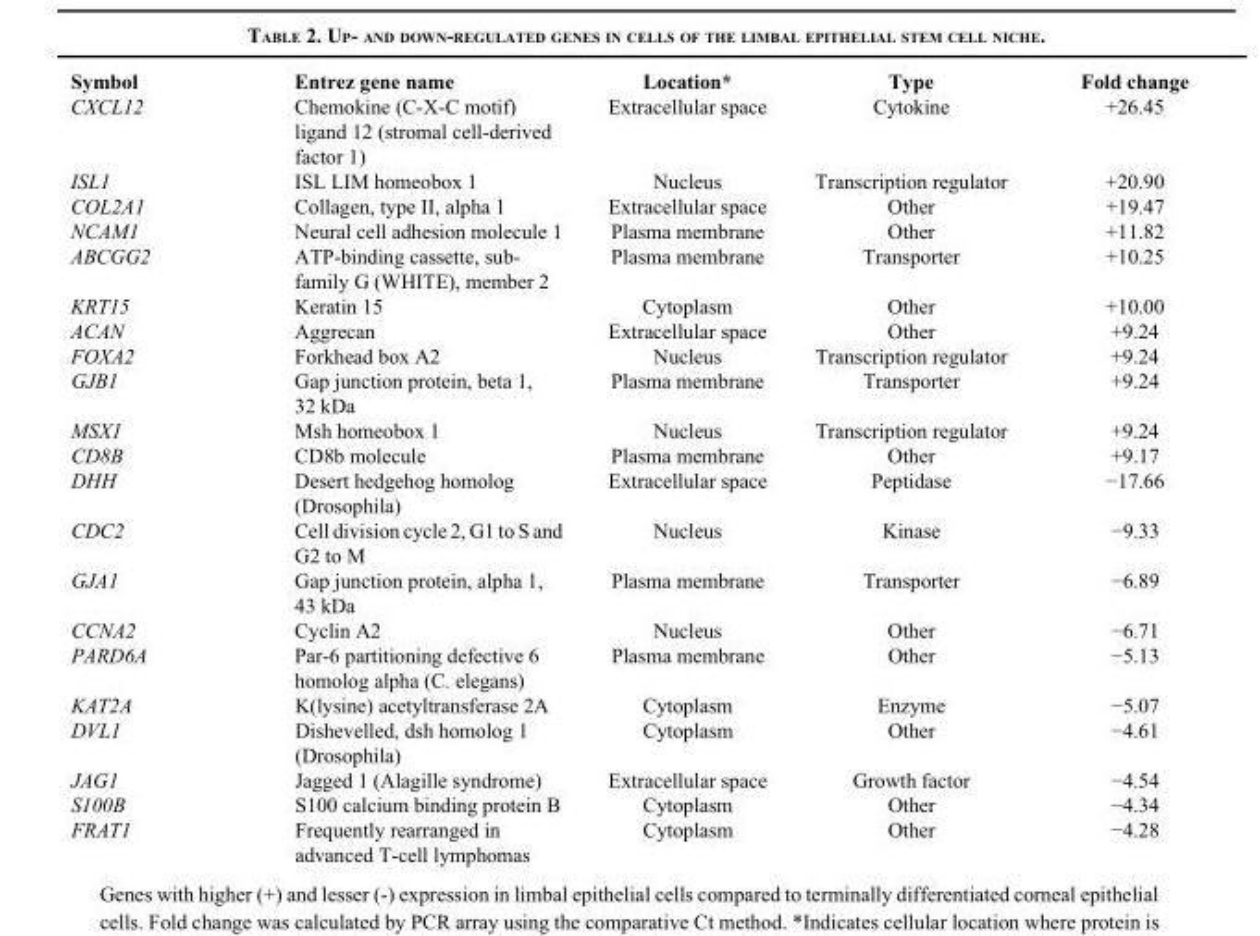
<table><thead><tr><td>Symbol</td><td>Entrez gene name</td><td>Location*</td><td>Type</td><td>Fold change</td></tr></thead><tbody><tr><td>CXCL12</td><td>Chemokine (C-X-C motif) ligand 12 (stromal cell-derived factor 1)</td><td>Extracellular space</td><td>Cytokine</td><td>+26.45</td></tr><tr><td>ISL1</td><td>ISL LIM homeobox 1</td><td>Nucleus</td><td>Transcription regulator</td><td>+20.90</td></tr><tr><td>COL2A1</td><td>Collagen, type II, alpha 1</td><td>Extracellular space</td><td>Other</td><td>+19.47</td></tr><tr><td>NCAM1</td><td>Neural cell adhesion molecule 1</td><td>Plasma membrane</td><td>Other</td><td>+11.82</td></tr><tr><td>ABCGG2</td><td>ATP-binding cassette, sub- family G (WHITE), member 2</td><td>Plasma membrane</td><td>Transporter</td><td>+10.25</td></tr><tr><td>KRT15</td><td>Keratin 15</td><td>Cytoplasm</td><td>Other</td><td>+10.00</td></tr><tr><td>ACAN</td><td>Aggrecan</td><td>Extracellular space</td><td>Other</td><td>+9.24</td></tr><tr><td>FOXA2</td><td>Forkhead box A2</td><td>Nucleus</td><td>Transcription regulator</td><td>+9.24</td></tr><tr><td>GJB1</td><td>Gap junction protein, beta 1, 32 kDa</td><td>Plasma membrane</td><td>Transporter</td><td>+9.24</td></tr><tr><td>MSX1</td><td>Msh homeobox 1</td><td>Nucleus</td><td>Transcription regulator</td><td>+9.24</td></tr><tr><td>CD8B</td><td>CD8b molecule</td><td>Plasma membrane</td><td>Other</td><td>+9.17</td></tr><tr><td>DHH</td><td>Desert hedgehog homolog (Drosophila)</td><td>Extracellular space</td><td>Peptidase</td><td>−17.66</td></tr><tr><td>CDC2</td><td>Cell division cycle 2, G1 to S and G2 to M</td><td>Nucleus</td><td>Kinase</td><td>−9.33</td></tr><tr><td>GJA1</td><td>Gap junction protein, alpha 1, 43 kDa</td><td>Plasma membrane</td><td>Transporter</td><td>−6.89</td></tr><tr><td>CCNA2</td><td>Cyclin A2</td><td>Nucleus</td><td>Other</td><td>−6.71</td></tr><tr><td>PARD6A</td><td>Par-6 partitioning defective 6 homolog alpha (C. elegans)</td><td>Plasma membrane</td><td>Other</td><td>−5.13</td></tr><tr><td>KAT2A</td><td>K(lysine) acetyltransferase 2A</td><td>Cytoplasm</td><td>Enzyme</td><td>−5.07</td></tr><tr><td>DVL1</td><td>Dishevelled, dsh homolog 1 (Drosophila)</td><td>Cytoplasm</td><td>Other</td><td>−4.61</td></tr><tr><td>JAG1</td><td>Jagged 1 (Alagille syndrome)</td><td>Extracellular space</td><td>Growth factor</td><td>−4.54</td></tr><tr><td>S100B</td><td>S100 calcium binding protein B</td><td>Cytoplasm</td><td>Other</td><td>−4.34</td></tr><tr><td>FRAT1</td><td>Frequently rearranged in advanced T-cell lymphomas</td><td>Cytoplasm</td><td>Other</td><td>−4.28</td></tr></tbody></table>